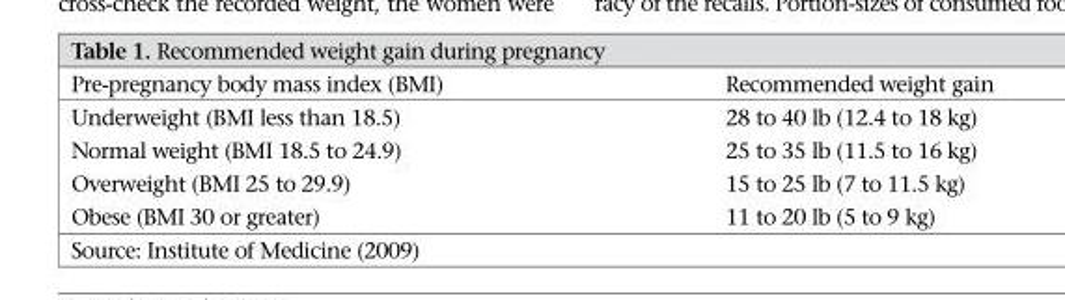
<table><thead><tr><td>Pre-pregnancy body mass index (BMI)</td><td>Recommended weight gain</td></tr></thead><tbody><tr><td>Underweight (BMI less than 18.5)</td><td>28 to 40 lb (12.4 to 18 kg)</td></tr><tr><td>Normal weight (BMI 18.5 to 24.9)</td><td>25 to 35 lb (11.5 to 16 kg)</td></tr><tr><td>Overweight (BMI 25 to 29.9)</td><td>15 to 25 lb (7 to 11.5 kg)</td></tr><tr><td>Obese (BMI 30 or greater)</td><td>11 to 20 lb (5 to 9 kg)</td></tr></tbody></table>